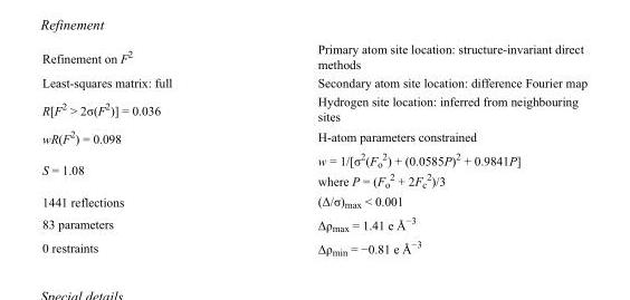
<table><tbody><tr><td>Refinement on F<sup>2</sup></td><td>Primary atom site location: structure-invariant direct methods</td></tr><tr><td>Least-squares matrix: full</td><td>Secondary atom site location: difference Fourier map</td></tr><tr><td>R[F<sup>2</sup> &gt; 2σ(F<sup>2</sup>)] = 0.036</td><td>Hydrogen site location: inferred from neighbouring sites</td></tr><tr><td>wR(F<sup>2</sup>) = 0.098</td><td>H-atom parameters constrained</td></tr><tr><td>S = 1.08</td><td>w = 1/[σ<sup>2</sup>(F<sub>o</sub> <sup>2</sup>) + (0.0585P)<sup>2</sup> + 0.9841P] where P = (F<sub>o</sub> <sup>2</sup> + 2F<sub>c</sub> <sup>2</sup>)/3</td></tr><tr><td>1441 reflections</td><td>(Δ/σ)<sub>max</sub> &lt; 0.001</td></tr><tr><td>83 parameters</td><td>Δρ<sub>max</sub> = 1.41 e Å<sup>−3</sup></td></tr><tr><td>0 restraints</td><td>Δρ<sub>min</sub> = −0.81 e Å<sup>−3</sup></td></tr></tbody></table>